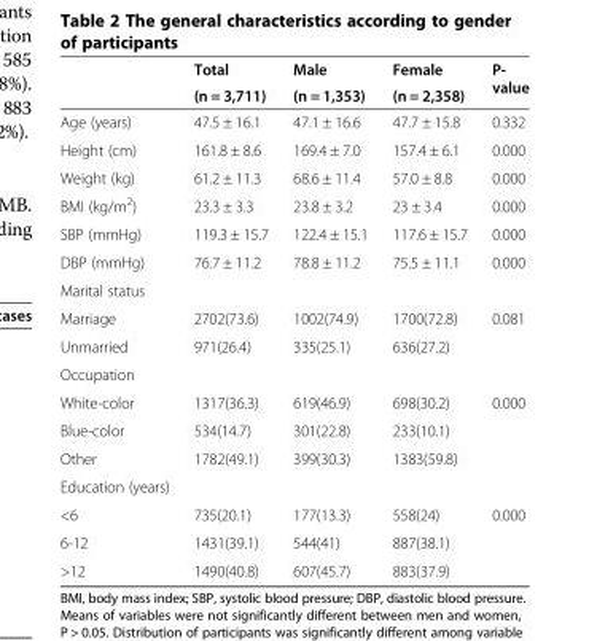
<table><thead><tr><td rowspan="2"></td><td rowspan="2">Total (n = 3,711)</td><td rowspan="2">Male (n = 1,353)</td><td rowspan="2">Female (n = 2,358)</td><td rowspan="2">P- value</td></tr><tr></tr></thead><tbody><tr><td>Age (years)</td><td>47.5 ± 16.1</td><td>47.1 ± 16.6</td><td>47.7 ± 15.8</td><td>0.332</td></tr><tr><td>Height (cm)</td><td>161.8 ± 8.6</td><td>169.4 ± 7.0</td><td>157.4 ± 6.1</td><td>0.000</td></tr><tr><td>Weight (kg)</td><td>61.2 ± 11.3</td><td>68.6 ± 11.4</td><td>57.0 ± 8.8</td><td>0.000</td></tr><tr><td>BMI (kg/m<sup>2</sup>)</td><td>23.3 ± 3.3</td><td>23.8 ± 3.2</td><td>23 ± 3.4</td><td>0.000</td></tr><tr><td>SBP (mmHg)</td><td>119.3 ± 15.7</td><td>122.4 ± 15.1</td><td>117.6 ± 15.7</td><td>0.000</td></tr><tr><td>DBP (mmHg)</td><td>76.7 ± 11.2</td><td>78.8 ± 11.2</td><td>75.5 ± 11.1</td><td>0.000</td></tr><tr><td colspan="5">Marital status</td></tr><tr><td>Marriage</td><td>2702(73.6)</td><td>1002(74.9)</td><td>1700(72.8)</td><td>0.081</td></tr><tr><td>Unmarried</td><td>971(26.4)</td><td>335(25.1)</td><td>636(27.2)</td><td></td></tr><tr><td colspan="5">Occupation</td></tr><tr><td>White-color</td><td>1317(36.3)</td><td>619(46.9)</td><td>698(30.2)</td><td>0.000</td></tr><tr><td>Blue-color</td><td>534(14.7)</td><td>301(22.8)</td><td>233(10.1)</td><td></td></tr><tr><td>Other</td><td>1782(49.1)</td><td>399(30.3)</td><td>1383(59.8)</td><td></td></tr><tr><td colspan="5">Education (years)</td></tr><tr><td>&lt;6</td><td>735(20.1)</td><td>177(13.3)</td><td>558(24)</td><td>0.000</td></tr><tr><td>6-12</td><td>1431(39.1)</td><td>544(41)</td><td>887(38.1)</td><td></td></tr><tr><td>&gt;12</td><td>1490(40.8)</td><td>607(45.7)</td><td>883(37.9)</td><td></td></tr></tbody></table>